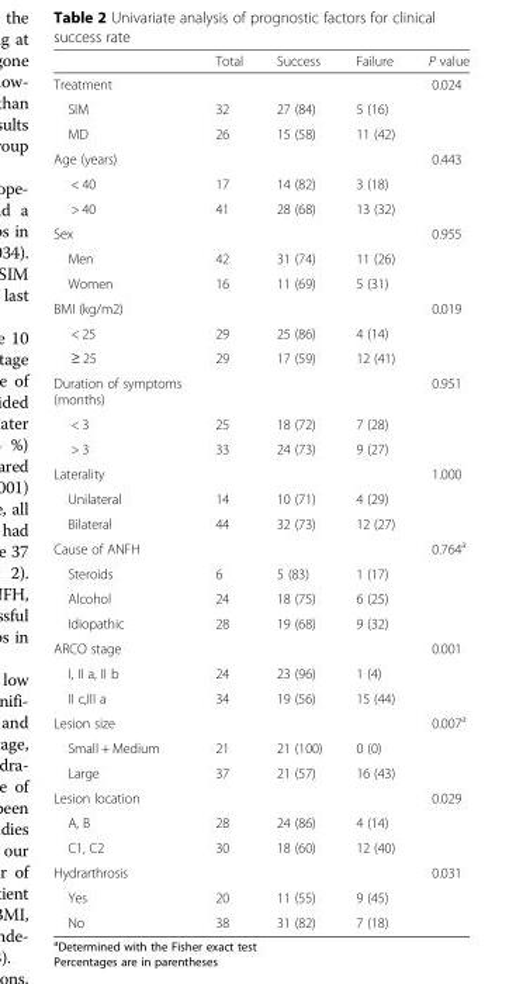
<table><thead><tr><td></td><td>Total</td><td>Success</td><td>Failure</td><td>P value</td></tr></thead><tbody><tr><td colspan="4">Treatment</td><td rowspan="3">0.024</td></tr><tr><td>SIM</td><td>32</td><td>27 (84)</td><td>5 (16)</td></tr><tr><td>MD</td><td>26</td><td>15 (58)</td><td>11 (42)</td></tr><tr><td colspan="4">Age (years)</td><td rowspan="3">0.443</td></tr><tr><td>&lt; 40</td><td>17</td><td>14 (82)</td><td>3 (18)</td></tr><tr><td>&gt; 40</td><td>41</td><td>28 (68)</td><td>13 (32)</td></tr><tr><td colspan="4">Sex</td><td rowspan="3">0.955</td></tr><tr><td>Men</td><td>42</td><td>31 (74)</td><td>11 (26)</td></tr><tr><td>Women</td><td>16</td><td>11 (69)</td><td>5 (31)</td></tr><tr><td colspan="4">BMI (kg/m2)</td><td rowspan="3">0.019</td></tr><tr><td>&lt; 25</td><td>29</td><td>25 (86)</td><td>4 (14)</td></tr><tr><td>≥ 25</td><td>29</td><td>17 (59)</td><td>12 (41)</td></tr><tr><td colspan="4">Duration of symptoms (months)</td><td rowspan="3">0.951</td></tr><tr><td>&lt; 3</td><td>25</td><td>18 (72)</td><td>7 (28)</td></tr><tr><td>&gt; 3</td><td>33</td><td>24 (73)</td><td>9 (27)</td></tr><tr><td colspan="4">Laterality</td><td rowspan="3">1.000</td></tr><tr><td>Unilateral</td><td>14</td><td>10 (71)</td><td>4 (29)</td></tr><tr><td>Bilateral</td><td>44</td><td>32 (73)</td><td>12 (27)</td></tr><tr><td colspan="4">Cause of ANFH</td><td rowspan="4">0.764<sup>a</sup></td></tr><tr><td>Steroids</td><td>6</td><td>5 (83)</td><td>1 (17)</td></tr><tr><td>Alcohol</td><td>24</td><td>18 (75)</td><td>6 (25)</td></tr><tr><td>Idiopathic</td><td>28</td><td>19 (68)</td><td>9 (32)</td></tr><tr><td colspan="4">ARCO stage</td><td rowspan="3">0.001</td></tr><tr><td>I, II a, II b</td><td>24</td><td>23 (96)</td><td>1 (4)</td></tr><tr><td>II c,III a</td><td>34</td><td>19 (56)</td><td>15 (44)</td></tr><tr><td colspan="4">Lesion size</td><td rowspan="3">0.007<sup>a</sup></td></tr><tr><td>Small + Medium</td><td>21</td><td>21 (100)</td><td>0 (0)</td></tr><tr><td>Large</td><td>37</td><td>21 (57)</td><td>16 (43)</td></tr><tr><td colspan="4">Lesion location</td><td rowspan="3">0.029</td></tr><tr><td>A, B</td><td>28</td><td>24 (86)</td><td>4 (14)</td></tr><tr><td>C1, C2</td><td>30</td><td>18 (60)</td><td>12 (40)</td></tr><tr><td colspan="4">Hydrarthrosis</td><td rowspan="3">0.031</td></tr><tr><td>Yes</td><td>20</td><td>11 (55)</td><td>9 (45)</td></tr><tr><td>No</td><td>38</td><td>31 (82)</td><td>7 (18)</td></tr></tbody></table>